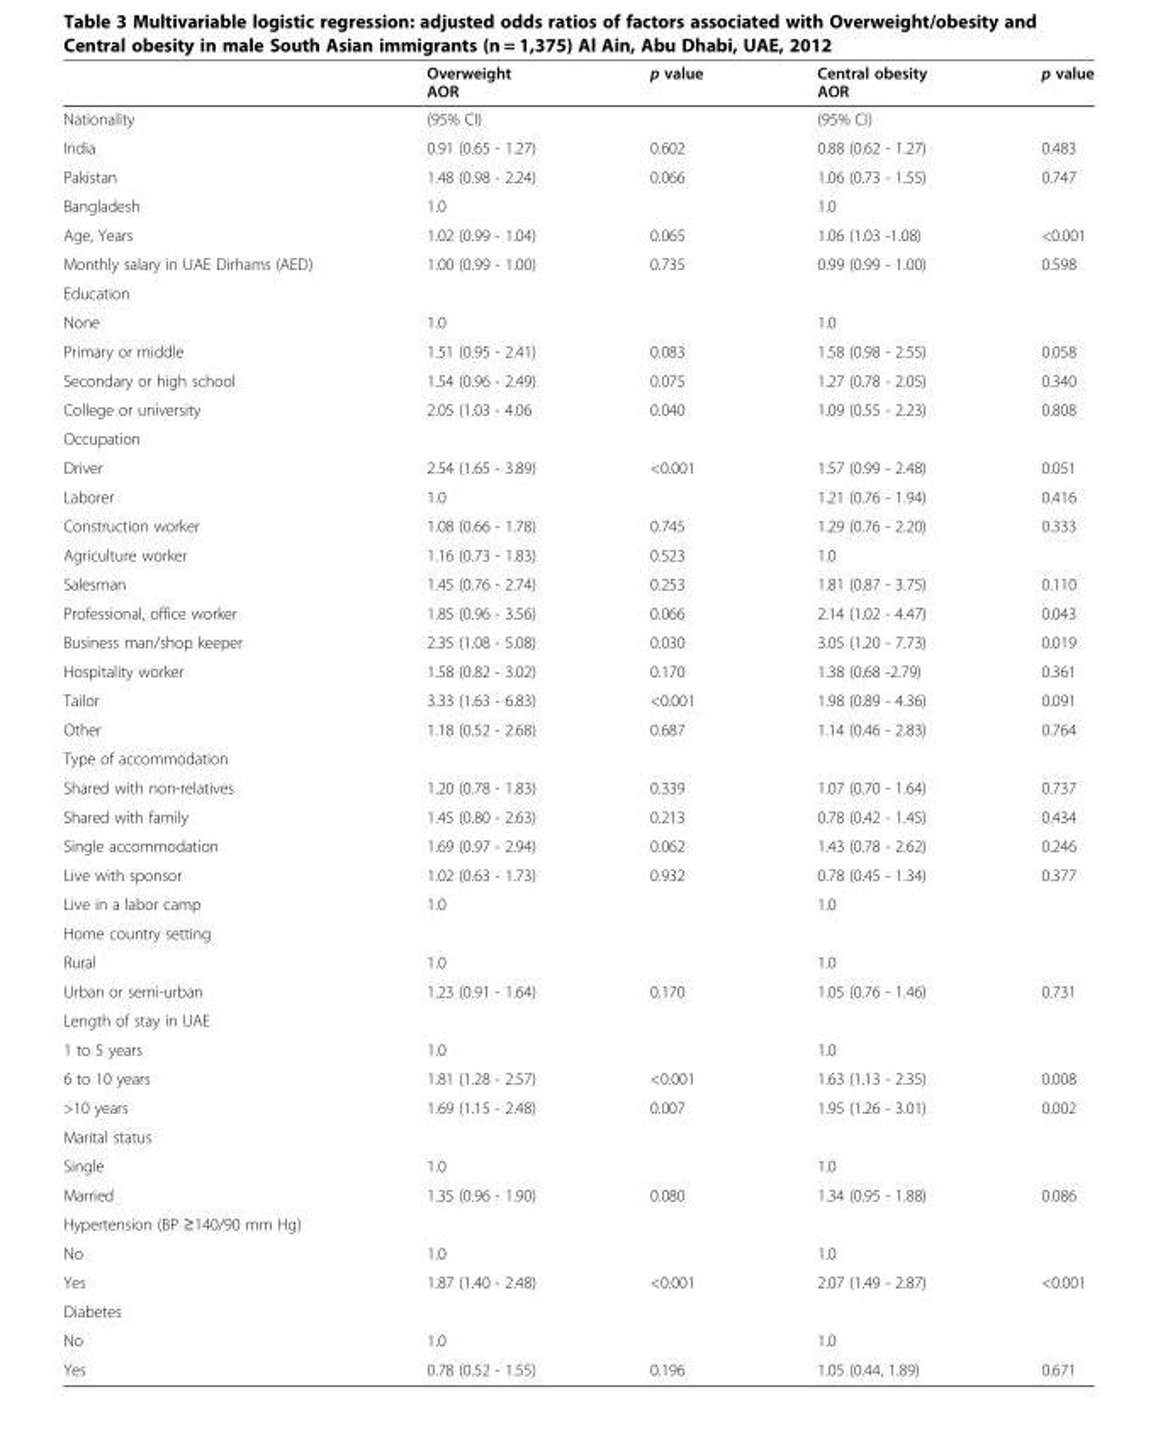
<table><thead><tr><td></td><td>Overweight AOR</td><td>p value</td><td>Central obesity AOR</td><td>p value</td></tr></thead><tbody><tr><td>Nationality</td><td>(95% CI)</td><td></td><td>(95% CI)</td><td></td></tr><tr><td>India</td><td>0.91 (0.65 - 1.27)</td><td>0.602</td><td>0.88 (0.62 - 1.27)</td><td>0.483</td></tr><tr><td>Pakistan</td><td>1.48 (0.98 - 2.24)</td><td>0.066</td><td>1.06 (0.73 - 1.55)</td><td>0.747</td></tr><tr><td>Bangladesh</td><td>1.0</td><td></td><td>1.0</td><td></td></tr><tr><td>Age, Years</td><td>1.02 (0.99 - 1.04)</td><td>0.065</td><td>1.06 (1.03 -1.08)</td><td>&lt;0.001</td></tr><tr><td>Monthly salary in UAE Dirhams (AED)</td><td>1.00 (0.99 - 1.00)</td><td>0.735</td><td>0.99 (0.99 - 1.00)</td><td>0.598</td></tr><tr><td colspan="5">Education</td></tr><tr><td>None</td><td>1.0</td><td></td><td>1.0</td><td></td></tr><tr><td>Primary or middle</td><td>1.51 (0.95 - 2.41)</td><td>0.083</td><td>1.58 (0.98 - 2.55)</td><td>0.058</td></tr><tr><td>Secondary or high school</td><td>1.54 (0.96 - 2.49)</td><td>0.075</td><td>1.27 (0.78 - 2.05)</td><td>0.340</td></tr><tr><td>College or university</td><td>2.05 (1.03 - 4.06</td><td>0.040</td><td>1.09 (0.55 - 2.23)</td><td>0.808</td></tr><tr><td colspan="5">Occupation</td></tr><tr><td>Driver</td><td>2.54 (1.65 - 3.89)</td><td>&lt;0.001</td><td>1.57 (0.99 - 2.48)</td><td>0.051</td></tr><tr><td>Laborer</td><td>1.0</td><td></td><td>1.21 (0.76 - 1.94)</td><td>0.416</td></tr><tr><td>Construction worker</td><td>1.08 (0.66 - 1.78)</td><td>0.745</td><td>1.29 (0.76 - 2.20)</td><td>0.333</td></tr><tr><td>Agriculture worker</td><td>1.16 (0.73 - 1.83)</td><td>0.523</td><td>1.0</td><td></td></tr><tr><td>Salesman</td><td>1.45 (0.76 - 2.74)</td><td>0.253</td><td>1.81 (0.87 - 3.75)</td><td>0.110</td></tr><tr><td>Professional, office worker</td><td>1.85 (0.96 - 3.56)</td><td>0.066</td><td>2.14 (1.02 - 4.47)</td><td>0.043</td></tr><tr><td>Business man/shop keeper</td><td>2.35 (1.08 - 5.08)</td><td>0.030</td><td>3.05 (1.20 - 7.73)</td><td>0.019</td></tr><tr><td>Hospitality worker</td><td>1.58 (0.82 - 3.02)</td><td>0.170</td><td>1.38 (0.68 -2.79)</td><td>0.361</td></tr><tr><td>Tailor</td><td>3.33 (1.63 - 6.83)</td><td>&lt;0.001</td><td>1.98 (0.89 - 4.36)</td><td>0.091</td></tr><tr><td>Other</td><td>1.18 (0.52 - 2.68)</td><td>0.687</td><td>1.14 (0.46 - 2.83)</td><td>0.764</td></tr><tr><td colspan="5">Type of accommodation</td></tr><tr><td>Shared with non-relatives</td><td>1.20 (0.78 - 1.83)</td><td>0.339</td><td>1.07 (0.70 - 1.64)</td><td>0.737</td></tr><tr><td>Shared with family</td><td>1.45 (0.80 - 2.63)</td><td>0.213</td><td>0.78 (0.42 - 1.45)</td><td>0.434</td></tr><tr><td>Single accommodation</td><td>1.69 (0.97 - 2.94)</td><td>0.062</td><td>1.43 (0.78 - 2.62)</td><td>0.246</td></tr><tr><td>Live with sponsor</td><td>1.02 (0.63 - 1.73)</td><td>0.932</td><td>0.78 (0.45 - 1.34)</td><td>0.377</td></tr><tr><td>Live in a labor camp</td><td>1.0</td><td></td><td>1.0</td><td></td></tr><tr><td colspan="5">Home country setting</td></tr><tr><td>Rural</td><td>1.0</td><td></td><td>1.0</td><td></td></tr><tr><td>Urban or semi-urban</td><td>1.23 (0.91 - 1.64)</td><td>0.170</td><td>1.05 (0.76 - 1.46)</td><td>0.731</td></tr><tr><td colspan="5">Length of stay in UAE</td></tr><tr><td>1 to 5 years</td><td>1.0</td><td></td><td>1.0</td><td></td></tr><tr><td>6 to 10 years</td><td>1.81 (1.28 - 2.57)</td><td>&lt;0.001</td><td>1.63 (1.13 - 2.35)</td><td>0.008</td></tr><tr><td>&gt;10 years</td><td>1.69 (1.15 - 2.48)</td><td>0.007</td><td>1.95 (1.26 - 3.01)</td><td>0.002</td></tr><tr><td colspan="5">Marital status</td></tr><tr><td>Single</td><td>1.0</td><td></td><td>1.0</td><td></td></tr><tr><td>Married</td><td>1.35 (0.96 - 1.90)</td><td>0.080</td><td>1.34 (0.95 - 1.88)</td><td>0.086</td></tr><tr><td colspan="5">Hypertension (BP ≥140/90 mm Hg)</td></tr><tr><td>No</td><td>1.0</td><td></td><td>1.0</td><td></td></tr><tr><td>Yes</td><td>1.87 (1.40 - 2.48)</td><td>&lt;0.001</td><td>2.07 (1.49 - 2.87)</td><td>&lt;0.001</td></tr><tr><td colspan="5">Diabetes</td></tr><tr><td>No</td><td>1.0</td><td></td><td>1.0</td><td></td></tr><tr><td>Yes</td><td>0.78 (0.52 - 1.55)</td><td>0.196</td><td>1.05 (0.44, 1.89)</td><td>0.671</td></tr></tbody></table>